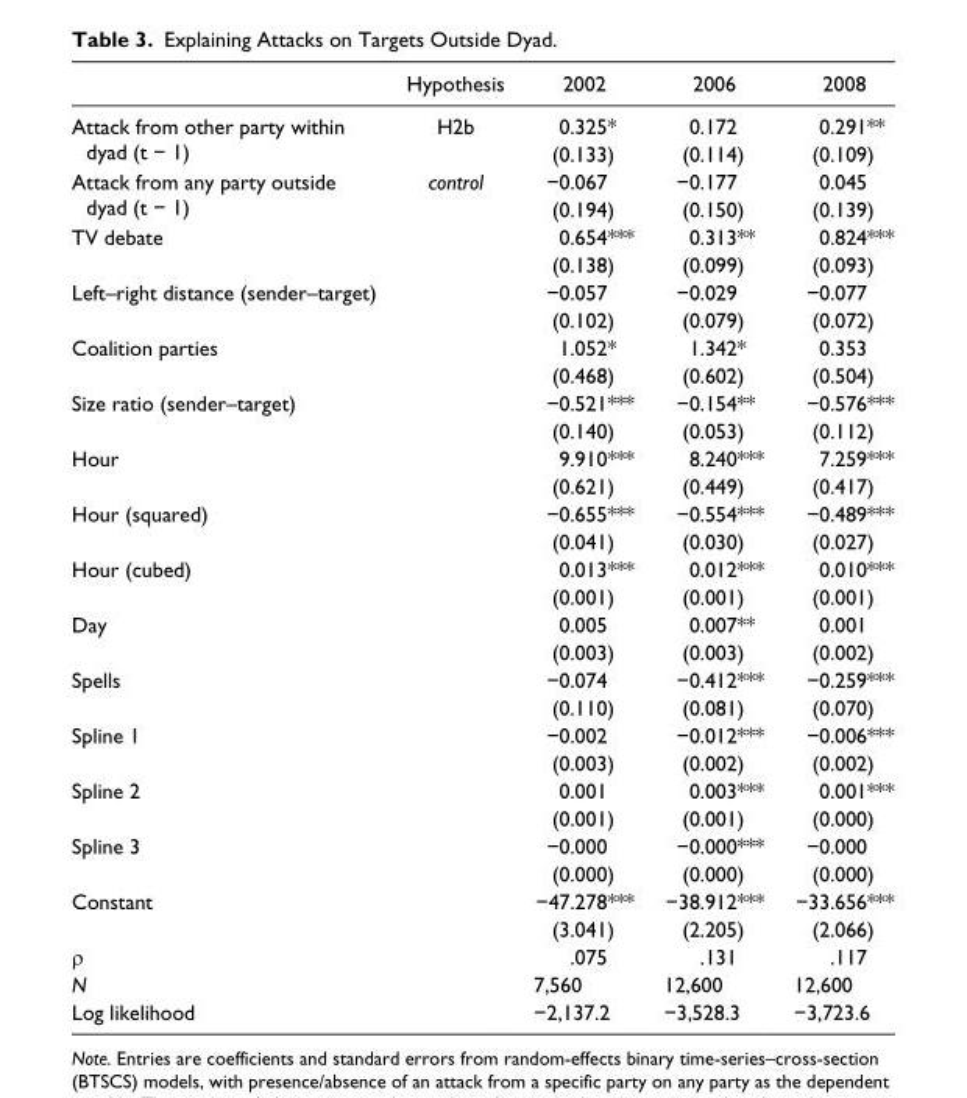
<table><thead><tr><td></td><td>Hypothesis</td><td>2002</td><td>2006</td><td>2008</td></tr></thead><tbody><tr><td rowspan="2">Attack from other party within dyad (t − 1)</td><td>H2b</td><td>0.325*</td><td>0.172</td><td>0.291**</td></tr><tr><td></td><td>(0.133)</td><td>(0.114)</td><td>(0.109)</td></tr><tr><td rowspan="2">Attack from any party outside dyad (t − 1)</td><td>control</td><td>−0.067</td><td>−0.177</td><td>0.045</td></tr><tr><td></td><td>(0.194)</td><td>(0.150)</td><td>(0.139)</td></tr><tr><td rowspan="2">TV debate</td><td></td><td>0.654***</td><td>0.313**</td><td>0.824***</td></tr><tr><td></td><td>(0.138)</td><td>(0.099)</td><td>(0.093)</td></tr><tr><td rowspan="2">Left–right distance (sender–target)</td><td></td><td>−0.057</td><td>−0.029</td><td>−0.077</td></tr><tr><td></td><td>(0.102)</td><td>(0.079)</td><td>(0.072)</td></tr><tr><td rowspan="2">Coalition parties</td><td></td><td>1.052*</td><td>1.342*</td><td>0.353</td></tr><tr><td></td><td>(0.468)</td><td>(0.602)</td><td>(0.504)</td></tr><tr><td rowspan="2">Size ratio (sender–target)</td><td></td><td>−0.521***</td><td>−0.154**</td><td>−0.576***</td></tr><tr><td></td><td>(0.140)</td><td>(0.053)</td><td>(0.112)</td></tr><tr><td rowspan="2">Hour</td><td></td><td>9.910***</td><td>8.240***</td><td>7.259***</td></tr><tr><td></td><td>(0.621)</td><td>(0.449)</td><td>(0.417)</td></tr><tr><td rowspan="2">Hour (squared)</td><td></td><td>−0.655***</td><td>−0.554***</td><td>−0.489***</td></tr><tr><td></td><td>(0.041)</td><td>(0.030)</td><td>(0.027)</td></tr><tr><td rowspan="2">Hour (cubed)</td><td></td><td>0.013***</td><td>0.012***</td><td>0.010***</td></tr><tr><td></td><td>(0.001)</td><td>(0.001)</td><td>(0.001)</td></tr><tr><td rowspan="2">Day</td><td></td><td>0.005</td><td>0.007**</td><td>0.001</td></tr><tr><td></td><td>(0.003)</td><td>(0.003)</td><td>(0.002)</td></tr><tr><td rowspan="2">Spells</td><td></td><td>−0.074</td><td>−0.412***</td><td>−0.259***</td></tr><tr><td></td><td>(0.110)</td><td>(0.081)</td><td>(0.070)</td></tr><tr><td rowspan="2">Spline 1</td><td></td><td>−0.002</td><td>−0.012***</td><td>−0.006***</td></tr><tr><td></td><td>(0.003)</td><td>(0.002)</td><td>(0.002)</td></tr><tr><td rowspan="2">Spline 2</td><td></td><td>0.001</td><td>0.003***</td><td>0.001***</td></tr><tr><td></td><td>(0.001)</td><td>(0.001)</td><td>(0.000)</td></tr><tr><td rowspan="2">Spline 3</td><td></td><td>−0.000</td><td>−0.000***</td><td>−0.000</td></tr><tr><td></td><td>(0.000)</td><td>(0.000)</td><td>(0.000)</td></tr><tr><td rowspan="2">Constant</td><td></td><td>−47.278***</td><td>−38.912***</td><td>−33.656***</td></tr><tr><td></td><td>(3.041)</td><td>(2.205)</td><td>(2.066)</td></tr><tr><td>ρ</td><td></td><td>.075</td><td>.131</td><td>.117</td></tr><tr><td>N</td><td></td><td>7,560</td><td>12,600</td><td>12,600</td></tr><tr><td>Log likelihood</td><td></td><td>−2,137.2</td><td>−3,528.3</td><td>−3,723.6</td></tr></tbody></table>